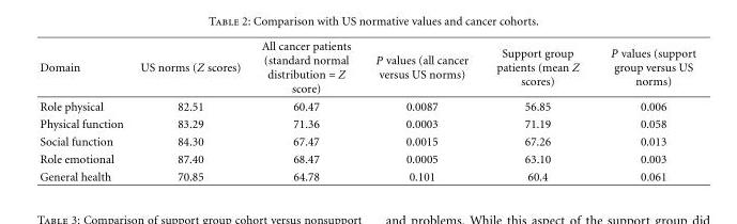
<table><thead><tr><td>Domain</td><td>US norms (Z scores)</td><td>All cancer patients (standard normal distribution = Z score)</td><td>P values (all cancer versus US norms)</td><td>Support group patients (mean Z scores)</td><td>P values (support group versus US norms)</td></tr></thead><tbody><tr><td>Role physical</td><td>82.51</td><td>60.47</td><td>0.0087</td><td>56.85</td><td>0.006</td></tr><tr><td>Physical function</td><td>83.29</td><td>71.36</td><td>0.0003</td><td>71.19</td><td>0.058</td></tr><tr><td>Social function</td><td>84.30</td><td>67.47</td><td>0.0015</td><td>67.26</td><td>0.013</td></tr><tr><td>Role emotional</td><td>87.40</td><td>68.47</td><td>0.0005</td><td>63.10</td><td>0.003</td></tr><tr><td>General health</td><td>70.85</td><td>64.78</td><td>0.101</td><td>60.4</td><td>0.061</td></tr></tbody></table>